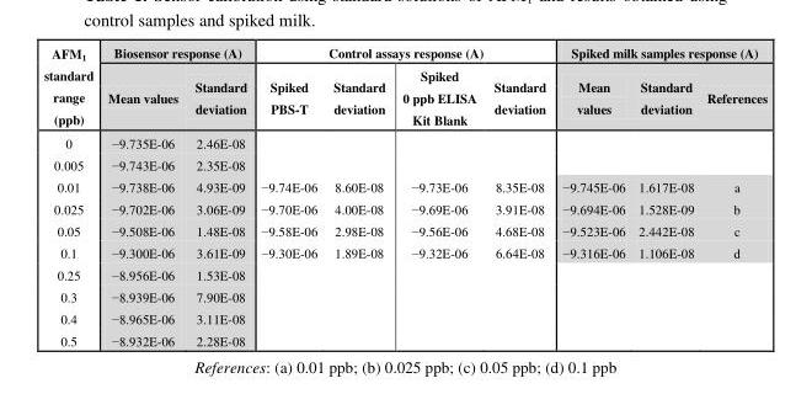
<table><thead><tr><td rowspan="2">AFM<sub>1</sub> standard range (ppb)</td><td colspan="2">Biosensor response (A)</td><td colspan="4">Control assays response (A)</td><td colspan="3">Spiked milk samples response (A)</td></tr><tr><td>Mean values</td><td>Standard deviation</td><td>Spiked PBS-T</td><td>Standard deviation</td><td>Spiked 0 ppb ELISA Kit Blank</td><td>Standard deviation</td><td>Mean values</td><td>Standard deviation</td><td>References</td></tr></thead><tbody><tr><td>0</td><td>−9.735E-06</td><td>2.46E-08</td><td></td><td></td><td></td><td></td><td></td><td></td><td></td></tr><tr><td>0.005</td><td>−9.743E-06</td><td>2.35E-08</td><td></td><td></td><td></td><td></td><td></td><td></td><td></td></tr><tr><td>0.01</td><td>−9.738E-06</td><td>4.93E-09</td><td>−9.74E-06</td><td>8.60E-08</td><td>−9.73E-06</td><td>8.35E-08</td><td>−9.745E-06</td><td>1.617E-08</td><td>a</td></tr><tr><td>0.025</td><td>−9.702E-06</td><td>3.06E-09</td><td>−9.70E-06</td><td>4.00E-08</td><td>−9.69E-06</td><td>3.91E-08</td><td>−9.694E-06</td><td>1.528E-09</td><td>b</td></tr><tr><td>0.05</td><td>−9.508E-06</td><td>1.48E-08</td><td>−9.58E-06</td><td>2.98E-08</td><td>−9.56E-06</td><td>4.68E-08</td><td>−9.523E-06</td><td>2.442E-08</td><td>c</td></tr><tr><td>0.1</td><td>−9.300E-06</td><td>3.61E-09</td><td>−9.30E-06</td><td>1.89E-08</td><td>−9.32E-06</td><td>6.64E-08</td><td>−9.316E-06</td><td>1.106E-08</td><td>d</td></tr><tr><td>0.25</td><td>−8.956E-06</td><td>1.53E-08</td><td></td><td></td><td></td><td></td><td></td><td></td><td></td></tr><tr><td>0.3</td><td>−8.939E-06</td><td>7.90E-08</td><td></td><td></td><td></td><td></td><td></td><td></td><td></td></tr><tr><td>0.4</td><td>−8.965E-06</td><td>3.11E-08</td><td></td><td></td><td></td><td></td><td></td><td></td><td></td></tr><tr><td>0.5</td><td>−8.932E-06</td><td>2.28E-08</td><td></td><td></td><td></td><td></td><td></td><td></td><td></td></tr></tbody></table>